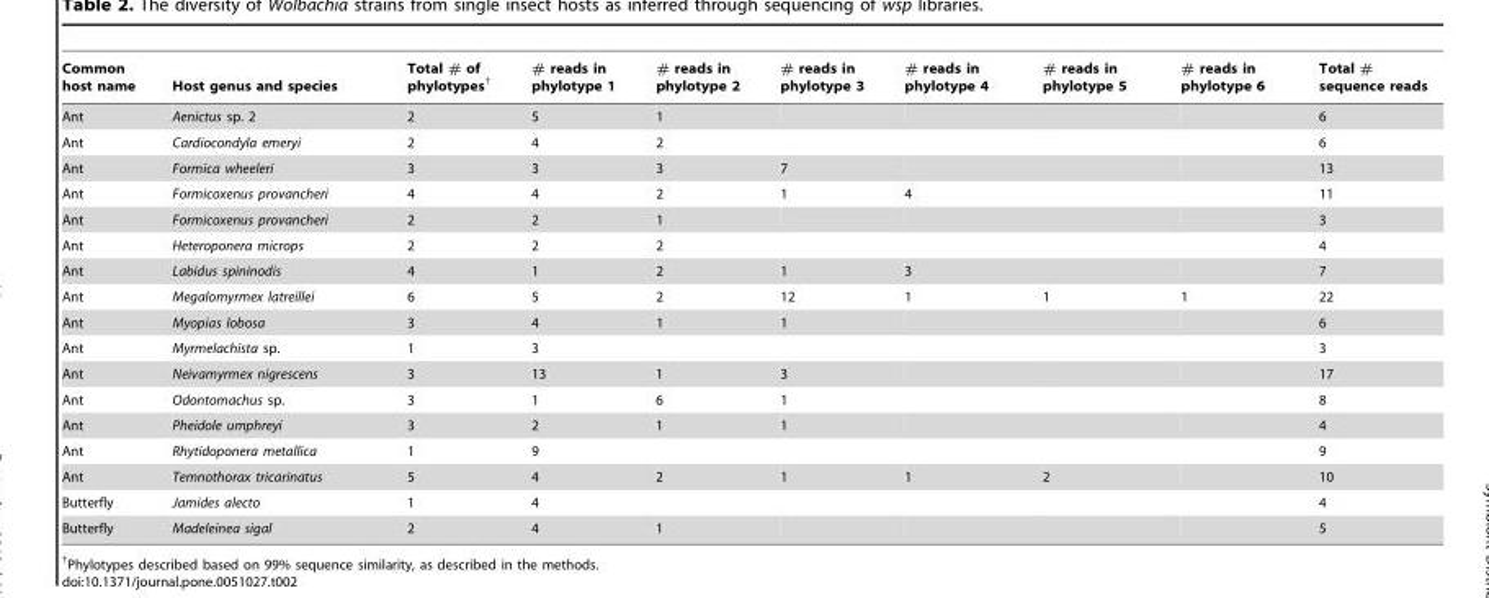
<table><thead><tr><td>Common host name</td><td>Host genus and species</td><td>Total # of phylotypes†</td><td># reads in phylotype 1</td><td># reads in phylotype 2</td><td># reads in phylotype 3</td><td># reads in phylotype 4</td><td># reads in phylotype 5</td><td># reads in phylotype 6</td><td>Total # sequence reads</td></tr></thead><tbody><tr><td>Ant</td><td>Aenictus sp. 2</td><td>2</td><td>5</td><td>1</td><td></td><td></td><td></td><td></td><td>6</td></tr><tr><td>Ant</td><td>Cardiocondyla emeryi</td><td>2</td><td>4</td><td>2</td><td></td><td></td><td></td><td></td><td>6</td></tr><tr><td>Ant</td><td>Formica wheeleri</td><td>3</td><td>3</td><td>3</td><td>7</td><td></td><td></td><td></td><td>13</td></tr><tr><td>Ant</td><td>Formicoxenus provancheri</td><td>4</td><td>4</td><td>2</td><td>1</td><td>4</td><td></td><td></td><td>11</td></tr><tr><td>Ant</td><td>Formicoxenus provancheri</td><td>2</td><td>2</td><td>1</td><td></td><td></td><td></td><td></td><td>3</td></tr><tr><td>Ant</td><td>Heteroponera microps</td><td>2</td><td>2</td><td>2</td><td></td><td></td><td></td><td></td><td>4</td></tr><tr><td>Ant</td><td>Labidus spininodis</td><td>4</td><td>1</td><td>2</td><td>1</td><td>3</td><td></td><td></td><td>7</td></tr><tr><td>Ant</td><td>Megalomyrmex latreillei</td><td>6</td><td>5</td><td>2</td><td>12</td><td>1</td><td>1</td><td>1</td><td>22</td></tr><tr><td>Ant</td><td>Myopias lobosa</td><td>3</td><td>4</td><td>1</td><td>1</td><td></td><td></td><td></td><td>6</td></tr><tr><td>Ant</td><td>Myrmelachista sp.</td><td>1</td><td>3</td><td></td><td></td><td></td><td></td><td></td><td>3</td></tr><tr><td>Ant</td><td>Neivamyrmex nigrescens</td><td>3</td><td>13</td><td>1</td><td>3</td><td></td><td></td><td></td><td>17</td></tr><tr><td>Ant</td><td>Odontomachus sp.</td><td>3</td><td>1</td><td>6</td><td>1</td><td></td><td></td><td></td><td>8</td></tr><tr><td>Ant</td><td>Pheidole umphreyi</td><td>3</td><td>2</td><td>1</td><td>1</td><td></td><td></td><td></td><td>4</td></tr><tr><td>Ant</td><td>Rhytidoponera metallica</td><td>1</td><td>9</td><td></td><td></td><td></td><td></td><td></td><td>9</td></tr><tr><td>Ant</td><td>Temnothorax tricarinatus</td><td>5</td><td>4</td><td>2</td><td>1</td><td>1</td><td>2</td><td></td><td>10</td></tr><tr><td>Butterfly</td><td>Jamides alecto</td><td>1</td><td>4</td><td></td><td></td><td></td><td></td><td></td><td>4</td></tr><tr><td>Butterfly</td><td>Madeleinea sigal</td><td>2</td><td>4</td><td>1</td><td></td><td></td><td></td><td></td><td>5</td></tr></tbody></table>